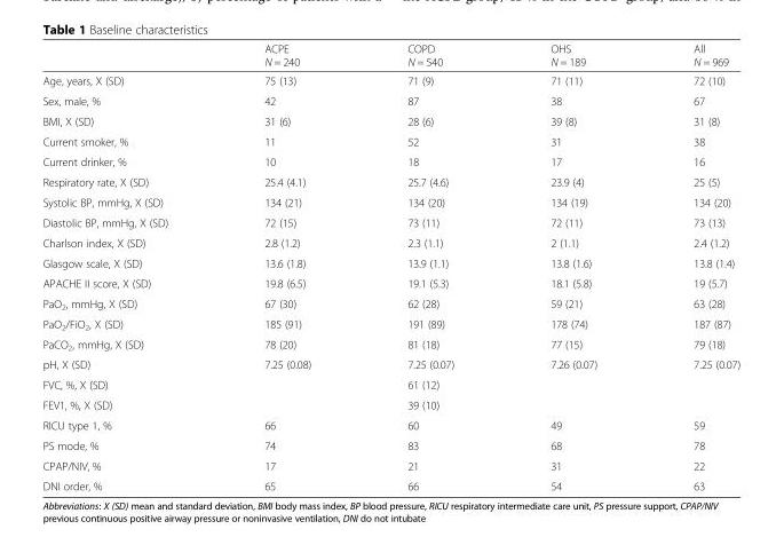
<table><thead><tr><td></td><td>ACPE N = 240</td><td>COPD N = 540</td><td>OHS N = 189</td><td>All N = 969</td></tr></thead><tbody><tr><td>Age, years, X (SD)</td><td>75 (13)</td><td>71 (9)</td><td>71 (11)</td><td>72 (10)</td></tr><tr><td>Sex, male, %</td><td>42</td><td>87</td><td>38</td><td>67</td></tr><tr><td>BMI, X (SD)</td><td>31 (6)</td><td>28 (6)</td><td>39 (8)</td><td>31 (8)</td></tr><tr><td>Current smoker, %</td><td>11</td><td>52</td><td>31</td><td>38</td></tr><tr><td>Current drinker, %</td><td>10</td><td>18</td><td>17</td><td>16</td></tr><tr><td>Respiratory rate, X (SD)</td><td>25.4 (4.1)</td><td>25.7 (4.6)</td><td>23.9 (4)</td><td>25 (5)</td></tr><tr><td>Systolic BP, mmHg, X (SD)</td><td>134 (21)</td><td>134 (20)</td><td>134 (19)</td><td>134 (20)</td></tr><tr><td>Diastolic BP, mmHg, X (SD)</td><td>72 (15)</td><td>73 (11)</td><td>72 (11)</td><td>73 (13)</td></tr><tr><td>Charlson index, X (SD)</td><td>2.8 (1.2)</td><td>2.3 (1.1)</td><td>2 (1.1)</td><td>2.4 (1.2)</td></tr><tr><td>Glasgow scale, X (SD)</td><td>13.6 (1.8)</td><td>13.9 (1.1)</td><td>13.8 (1.6)</td><td>13.8 (1.4)</td></tr><tr><td>APACHE II score, X (SD)</td><td>19.8 (6.5)</td><td>19.1 (5.3)</td><td>18.1 (5.8)</td><td>19 (5.7)</td></tr><tr><td>PaO<sub>2</sub>, mmHg, X (SD)</td><td>67 (30)</td><td>62 (28)</td><td>59 (21)</td><td>63 (28)</td></tr><tr><td>PaO<sub>2</sub>/FiO<sub>2</sub>, X (SD)</td><td>185 (91)</td><td>191 (89)</td><td>178 (74)</td><td>187 (87)</td></tr><tr><td>PaCO<sub>2</sub>, mmHg, X (SD)</td><td>78 (20)</td><td>81 (18)</td><td>77 (15)</td><td>79 (18)</td></tr><tr><td>pH, X (SD)</td><td>7.25 (0.08)</td><td>7.25 (0.07)</td><td>7.26 (0.07)</td><td>7.25 (0.07)</td></tr><tr><td>FVC, %, X (SD)</td><td></td><td>61 (12)</td><td></td><td></td></tr><tr><td>FEV1, %, X (SD)</td><td></td><td>39 (10)</td><td></td><td></td></tr><tr><td>RICU type 1, %</td><td>66</td><td>60</td><td>49</td><td>59</td></tr><tr><td>PS mode, %</td><td>74</td><td>83</td><td>68</td><td>78</td></tr><tr><td>CPAP/NIV, %</td><td>17</td><td>21</td><td>31</td><td>22</td></tr><tr><td>DNI order, %</td><td>65</td><td>66</td><td>54</td><td>63</td></tr></tbody></table>